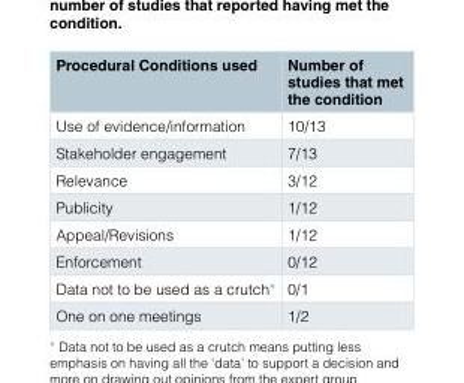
<table><thead><tr><td>Procedural Conditions used</td><td>Number of studies that met the condition</td></tr></thead><tbody><tr><td>Use of evidence/information</td><td>10/13</td></tr><tr><td>Stakeholder engagement</td><td>7/13</td></tr><tr><td>Relevance</td><td>3/12</td></tr><tr><td>Publicity</td><td>1/12</td></tr><tr><td>Appeal/Revisions</td><td>1/12</td></tr><tr><td>Enforcement</td><td>0/12</td></tr><tr><td>Data not to be used as a crutch*</td><td>0/1</td></tr><tr><td>One on one meetings</td><td>1/2</td></tr></tbody></table>